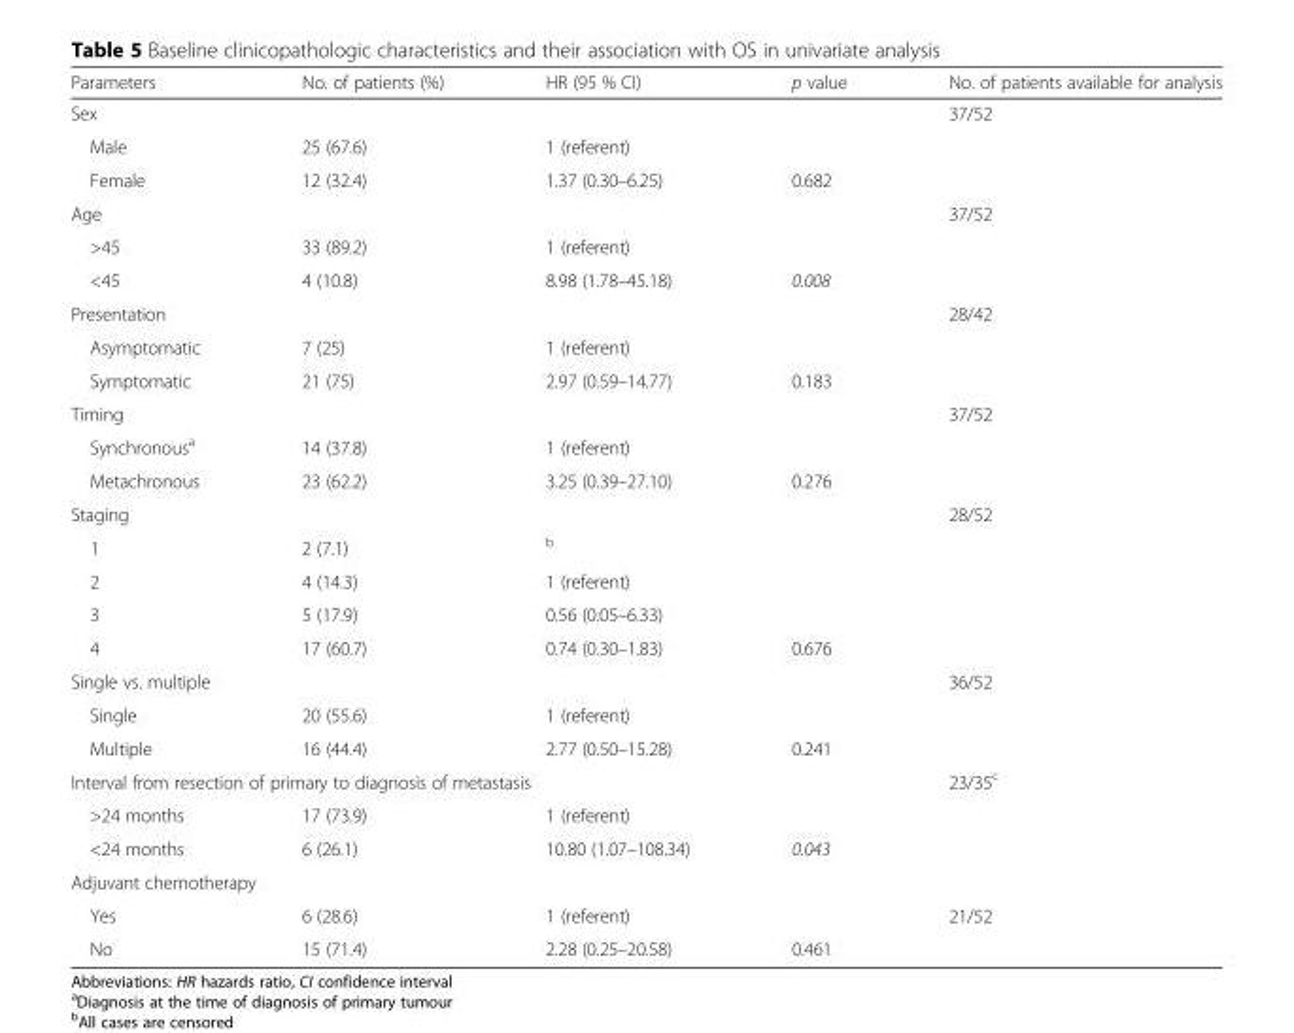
<table><thead><tr><td>Parameters</td><td>No. of patients (%)</td><td>HR (95 % CI)</td><td>p value</td><td>No. of patients available for analysis</td></tr></thead><tbody><tr><td colspan="4">Sex</td><td>37/52</td></tr><tr><td>Male</td><td>25 (67.6)</td><td>1 (referent)</td><td></td><td></td></tr><tr><td>Female</td><td>12 (32.4)</td><td>1.37 (0.30–6.25)</td><td>0.682</td><td></td></tr><tr><td colspan="4">Age</td><td>37/52</td></tr><tr><td>&gt;45</td><td>33 (89.2)</td><td>1 (referent)</td><td></td><td></td></tr><tr><td>&lt;45</td><td>4 (10.8)</td><td>8.98 (1.78–45.18)</td><td>0.008</td><td></td></tr><tr><td colspan="4">Presentation</td><td>28/42</td></tr><tr><td>Asymptomatic</td><td>7 (25)</td><td>1 (referent)</td><td></td><td></td></tr><tr><td>Symptomatic</td><td>21 (75)</td><td>2.97 (0.59–14.77)</td><td>0.183</td><td></td></tr><tr><td colspan="4">Timing</td><td>37/52</td></tr><tr><td>Synchronous<sup>a</sup></td><td>14 (37.8)</td><td>1 (referent)</td><td></td><td></td></tr><tr><td>Metachronous</td><td>23 (62.2)</td><td>3.25 (0.39–27.10)</td><td>0.276</td><td></td></tr><tr><td colspan="4">Staging</td><td>28/52</td></tr><tr><td>1</td><td>2 (7.1)</td><td><sup>b</sup></td><td></td><td></td></tr><tr><td>2</td><td>4 (14.3)</td><td>1 (referent)</td><td></td><td></td></tr><tr><td>3</td><td>5 (17.9)</td><td>0.56 (0.05–6.33)</td><td></td><td></td></tr><tr><td>4</td><td>17 (60.7)</td><td>0.74 (0.30–1.83)</td><td>0.676</td><td></td></tr><tr><td colspan="4">Single vs. multiple</td><td>36/52</td></tr><tr><td>Single</td><td>20 (55.6)</td><td>1 (referent)</td><td></td><td></td></tr><tr><td>Multiple</td><td>16 (44.4)</td><td>2.77 (0.50–15.28)</td><td>0.241</td><td></td></tr><tr><td colspan="4">Interval from resection of primary to diagnosis of metastasis</td><td>23/35<sup>c</sup></td></tr><tr><td>&gt;24 months</td><td>17 (73.9)</td><td>1 (referent)</td><td></td><td></td></tr><tr><td>&lt;24 months</td><td>6 (26.1)</td><td>10.80 (1.07–108.34)</td><td>0.043</td><td></td></tr><tr><td colspan="5">Adjuvant chemotherapy</td></tr><tr><td>Yes</td><td>6 (28.6)</td><td>1 (referent)</td><td></td><td>21/52</td></tr><tr><td>No</td><td>15 (71.4)</td><td>2.28 (0.25–20.58)</td><td>0.461</td><td></td></tr></tbody></table>